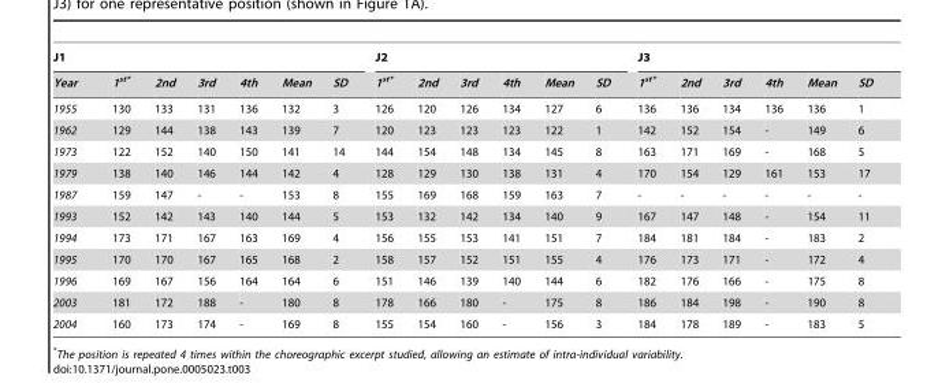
<table><thead><tr><td colspan="7">J1</td><td colspan="6">J2</td><td colspan="6">J3</td></tr><tr><td>Year</td><td>1<sup>st</sup>*</td><td>2nd</td><td>3rd</td><td>4th</td><td>Mean</td><td>SD</td><td>1<sup>st</sup>*</td><td>2nd</td><td>3rd</td><td>4th</td><td>Mean</td><td>SD</td><td>1<sup>st</sup>*</td><td>2nd</td><td>3rd</td><td>4th</td><td>Mean</td><td>SD</td></tr></thead><tbody><tr><td>1955</td><td>130</td><td>133</td><td>131</td><td>136</td><td>132</td><td>3</td><td>126</td><td>120</td><td>126</td><td>134</td><td>127</td><td>6</td><td>136</td><td>136</td><td>134</td><td>136</td><td>136</td><td>1</td></tr><tr><td>1962</td><td>129</td><td>144</td><td>138</td><td>143</td><td>139</td><td>7</td><td>120</td><td>123</td><td>123</td><td>123</td><td>122</td><td>1</td><td>142</td><td>152</td><td>154</td><td>-</td><td>149</td><td>6</td></tr><tr><td>1973</td><td>122</td><td>152</td><td>140</td><td>150</td><td>141</td><td>14</td><td>144</td><td>154</td><td>148</td><td>134</td><td>145</td><td>8</td><td>163</td><td>171</td><td>169</td><td>-</td><td>168</td><td>5</td></tr><tr><td>1979</td><td>138</td><td>140</td><td>146</td><td>144</td><td>142</td><td>4</td><td>128</td><td>129</td><td>130</td><td>138</td><td>131</td><td>4</td><td>170</td><td>154</td><td>129</td><td>161</td><td>153</td><td>17</td></tr><tr><td>1987</td><td>159</td><td>147</td><td>-</td><td>-</td><td>153</td><td>8</td><td>155</td><td>169</td><td>168</td><td>159</td><td>163</td><td>7</td><td>-</td><td>-</td><td>-</td><td>-</td><td>-</td><td>-</td></tr><tr><td>1993</td><td>152</td><td>142</td><td>143</td><td>140</td><td>144</td><td>5</td><td>153</td><td>132</td><td>142</td><td>134</td><td>140</td><td>9</td><td>167</td><td>147</td><td>148</td><td>-</td><td>154</td><td>11</td></tr><tr><td>1994</td><td>173</td><td>171</td><td>167</td><td>163</td><td>169</td><td>4</td><td>156</td><td>155</td><td>153</td><td>141</td><td>151</td><td>7</td><td>184</td><td>181</td><td>184</td><td>-</td><td>183</td><td>2</td></tr><tr><td>1995</td><td>170</td><td>170</td><td>167</td><td>165</td><td>168</td><td>2</td><td>158</td><td>157</td><td>152</td><td>151</td><td>155</td><td>4</td><td>176</td><td>173</td><td>171</td><td>-</td><td>172</td><td>4</td></tr><tr><td>1996</td><td>169</td><td>167</td><td>156</td><td>164</td><td>164</td><td>6</td><td>151</td><td>146</td><td>139</td><td>140</td><td>144</td><td>6</td><td>182</td><td>176</td><td>166</td><td>-</td><td>175</td><td>8</td></tr><tr><td>2003</td><td>181</td><td>172</td><td>188</td><td>-</td><td>180</td><td>8</td><td>178</td><td>166</td><td>180</td><td>-</td><td>175</td><td>8</td><td>186</td><td>184</td><td>198</td><td>-</td><td>190</td><td>8</td></tr><tr><td>2004</td><td>160</td><td>173</td><td>174</td><td>-</td><td>169</td><td>8</td><td>155</td><td>154</td><td>160</td><td>-</td><td>156</td><td>3</td><td>184</td><td>178</td><td>189</td><td>-</td><td>183</td><td>5</td></tr></tbody></table>